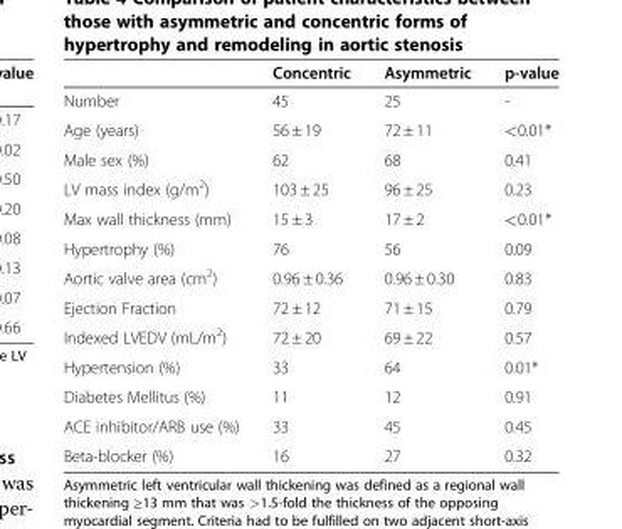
<table><thead><tr><td></td><td>Concentric</td><td>Asymmetric</td><td>p-value</td></tr></thead><tbody><tr><td>Number</td><td>45</td><td>25</td><td>-</td></tr><tr><td>Age (years)</td><td>56 ± 19</td><td>72 ± 11</td><td>&lt;0.01*</td></tr><tr><td>Male sex (%)</td><td>62</td><td>68</td><td>0.41</td></tr><tr><td>LV mass index (g/m<sup>2</sup>)</td><td>103 ± 25</td><td>96 ± 25</td><td>0.23</td></tr><tr><td>Max wall thickness (mm)</td><td>15 ± 3</td><td>17 ± 2</td><td>&lt;0.01*</td></tr><tr><td>Hypertrophy (%)</td><td>76</td><td>56</td><td>0.09</td></tr><tr><td>Aortic valve area (cm<sup>2</sup>)</td><td>0.96 ± 0.36</td><td>0.96 ± 0.30</td><td>0.83</td></tr><tr><td>Ejection Fraction</td><td>72 ± 12</td><td>71 ± 15</td><td>0.79</td></tr><tr><td>Indexed LVEDV (mL/m<sup>2</sup>)</td><td>72 ± 20</td><td>69 ± 22</td><td>0.57</td></tr><tr><td>Hypertension (%)</td><td>33</td><td>64</td><td>0.01*</td></tr><tr><td>Diabetes Mellitus (%)</td><td>11</td><td>12</td><td>0.91</td></tr><tr><td>ACE inhibitor/ARB use (%)</td><td>33</td><td>45</td><td>0.45</td></tr><tr><td>Beta-blocker (%)</td><td>16</td><td>27</td><td>0.32</td></tr></tbody></table>